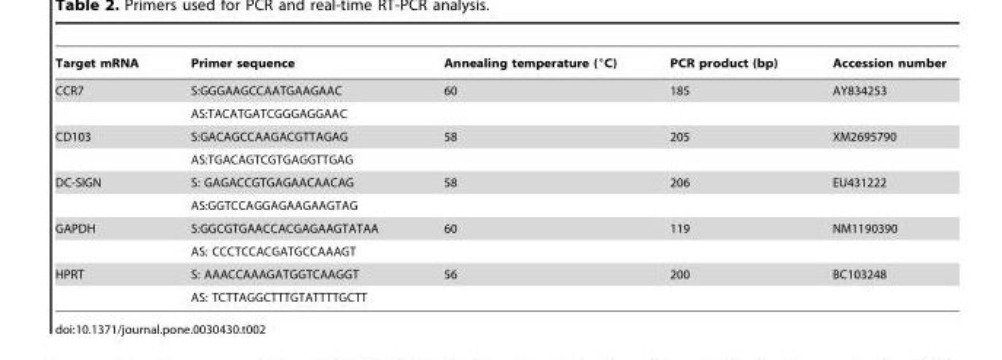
<table><thead><tr><td>Target mRNA</td><td>Primer sequence</td><td>Annealing temperature (°C)</td><td>PCR product (bp)</td><td>Accession number</td></tr></thead><tbody><tr><td rowspan="2">CCR7</td><td>S:GGGAAGCCAATGAAGAAC</td><td>60</td><td>185</td><td>AY834253</td></tr><tr><td>AS:TACATGATCGGGAGGAAC</td><td></td><td></td><td></td></tr><tr><td rowspan="2">CD103</td><td>S:GACAGCCAAGACGTTAGAG</td><td>58</td><td>205</td><td>XM2695790</td></tr><tr><td>AS:TGACAGTCGTGAGGTTGAG</td><td></td><td></td><td></td></tr><tr><td rowspan="2">DC-SIGN</td><td>S: GAGACCGTGAGAACAACAG</td><td>58</td><td>206</td><td>EU431222</td></tr><tr><td>AS:GGTCCAGGAGAAGAAGTAG</td><td></td><td></td><td></td></tr><tr><td rowspan="2">GAPDH</td><td>S:GGCGTGAACCACGAGAAGTATAA</td><td>60</td><td>119</td><td>NM1190390</td></tr><tr><td>AS: CCCTCCACGATGCCAAAGT</td><td></td><td></td><td></td></tr><tr><td rowspan="2">HPRT</td><td>S: AAACCAAAGATGGTCAAGGT</td><td>56</td><td>200</td><td>BC103248</td></tr><tr><td>AS: TCTTAGGCTTTGTATTTTGCTT</td><td></td><td></td><td></td></tr></tbody></table>